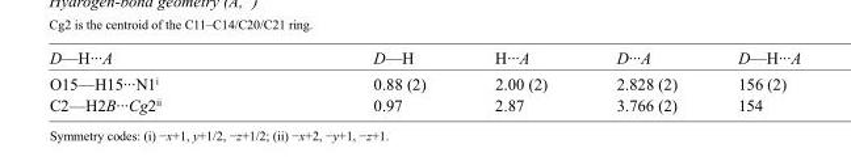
<table><tbody><tr><td>D—H···A</td><td>D—H</td><td>H···A</td><td>D···A</td><td>D—H···A</td></tr><tr><td>O15—H15···N1<sup>i</sup></td><td>0.88 (2)</td><td>2.00 (2)</td><td>2.828 (2)</td><td>156 (2)</td></tr><tr><td>C2—H2B···Cg2<sup>ii</sup></td><td>0.97</td><td>2.87</td><td>3.766 (2)</td><td>154</td></tr></tbody></table>